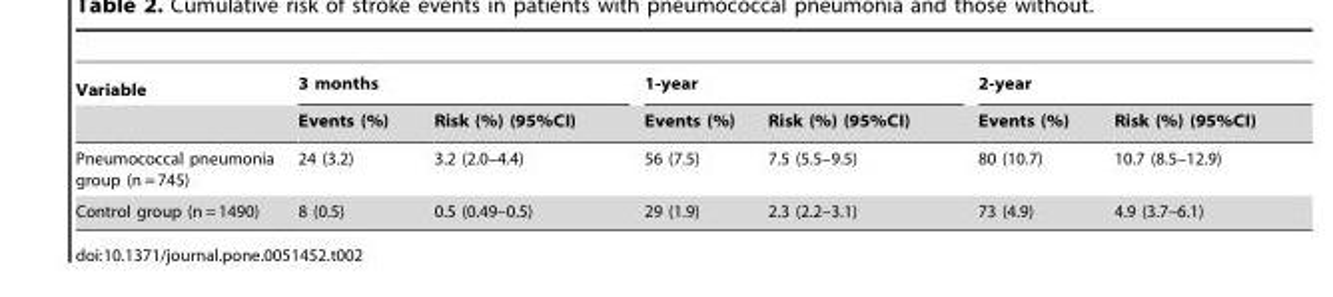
<table><thead><tr><td rowspan="2">Variable</td><td colspan="2">3 months</td><td colspan="2">1-year</td><td colspan="2">2-year</td></tr><tr><td>Events (%)</td><td>Risk (%) (95%CI)</td><td>Events (%)</td><td>Risk (%) (95%CI)</td><td>Events (%)</td><td>Risk (%) (95%CI)</td></tr></thead><tbody><tr><td>Pneumococcal pneumonia group (n = 745)</td><td>24 (3.2)</td><td>3.2 (2.0–4.4)</td><td>56 (7.5)</td><td>7.5 (5.5–9.5)</td><td>80 (10.7)</td><td>10.7 (8.5–12.9)</td></tr><tr><td>Control group (n = 1490)</td><td>8 (0.5)</td><td>0.5 (0.49–0.5)</td><td>29 (1.9)</td><td>2.3 (2.2–3.1)</td><td>73 (4.9)</td><td>4.9 (3.7–6.1)</td></tr></tbody></table>